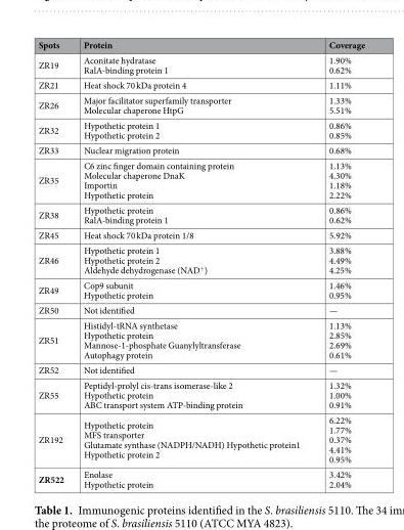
<table><thead><tr><td>Spots</td><td>Protein</td><td>Coverage</td></tr></thead><tbody><tr><td>ZR19</td><td>Aconitate hydratase RalA-binding protein 1</td><td>1.90% 0.62%</td></tr><tr><td>ZR21</td><td>Heat shock 70 kDa protein 4</td><td>1.11%</td></tr><tr><td>ZR26</td><td>Major facilitator superfamily transporter Molecular chaperone HtpG</td><td>1.33% 5.51%</td></tr><tr><td>ZR32</td><td>Hypothetic protein 1 Hypothetic protein 2</td><td>0.86% 0.85%</td></tr><tr><td>ZR33</td><td>Nuclear migration protein</td><td>0.68%</td></tr><tr><td>ZR35</td><td>C6 zinc finger domain containing protein Molecular chaperone DnaK Importin Hypothetic protein</td><td>1.13% 4.30% 1.18% 2.22%</td></tr><tr><td>ZR38</td><td>Hypothetic protein RalA-binding protein 1</td><td>0.86% 0.62%</td></tr><tr><td>ZR45</td><td>Heat shock 70 kDa protein 1/8</td><td>5.92%</td></tr><tr><td>ZR46</td><td>Hypothetic protein 1 Hypothetic protein 2 Aldehyde dehydrogenase (NAD<sup>+</sup>)</td><td>3.88% 4.49% 4.25%</td></tr><tr><td>ZR49</td><td>Cop9 subunit Hypothetic protein</td><td>1.46% 0.95%</td></tr><tr><td>ZR50</td><td>Not identified</td><td>—</td></tr><tr><td>ZR51</td><td>Histidyl-tRNA synthetase Hypothetic protein Mannose-1-phosphate Guanylyltransferase Autophagy protein</td><td>1.13% 2.85% 2.69% 0.61%</td></tr><tr><td>ZR52</td><td>Not identified</td><td>—</td></tr><tr><td>ZR55</td><td>Peptidyl-prolyl cis-trans isomerase-like 2 Hypothetic protein ABC transport system ATP-binding protein</td><td>1.32% 1.00% 0.91%</td></tr><tr><td>ZR192</td><td>Hypothetic protein MFS transporter Glutamate synthase (NADPH/NADH) Hypothetic protein1 Hypothetic protein 2</td><td>6.22% 1.77% 0.37% 4.41% 0.95%</td></tr><tr><td>ZR522</td><td>Enolase Hypothetic protein</td><td>3.42% 2.04%</td></tr></tbody></table>